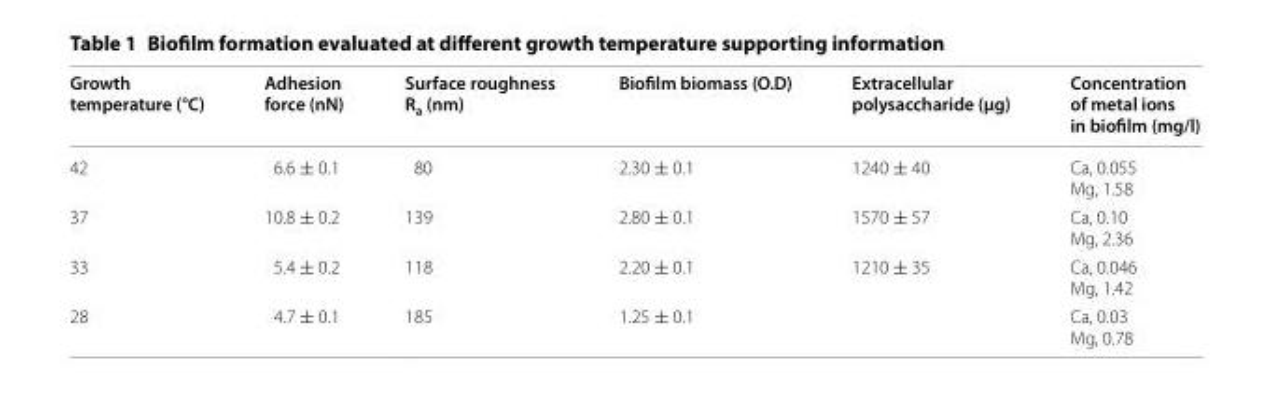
<table><thead><tr><td>Growth temperature (°C)</td><td>Adhesion force (nN)</td><td>Surface roughness R<sub>a</sub> (nm)</td><td>Biofilm biomass (O.D)</td><td>Extracellular polysaccharide (µg)</td><td>Concentration of metal ions in biofilm (mg/l)</td></tr></thead><tbody><tr><td>42</td><td>6.6 ± 0.1</td><td>80</td><td>2.30 ± 0.1</td><td>1240 ± 40</td><td>Ca, 0.055 Mg, 1.58</td></tr><tr><td>37</td><td>10.8 ± 0.2</td><td>139</td><td>2.80 ± 0.1</td><td>1570 ± 57</td><td>Ca, 0.10 Mg, 2.36</td></tr><tr><td>33</td><td>5.4 ± 0.2</td><td>118</td><td>2.20 ± 0.1</td><td>1210 ± 35</td><td>Ca, 0.046 Mg, 1.42</td></tr><tr><td>28</td><td>4.7 ± 0.1</td><td>185</td><td>1.25 ± 0.1</td><td></td><td>Ca, 0.03 Mg, 0.78</td></tr></tbody></table>